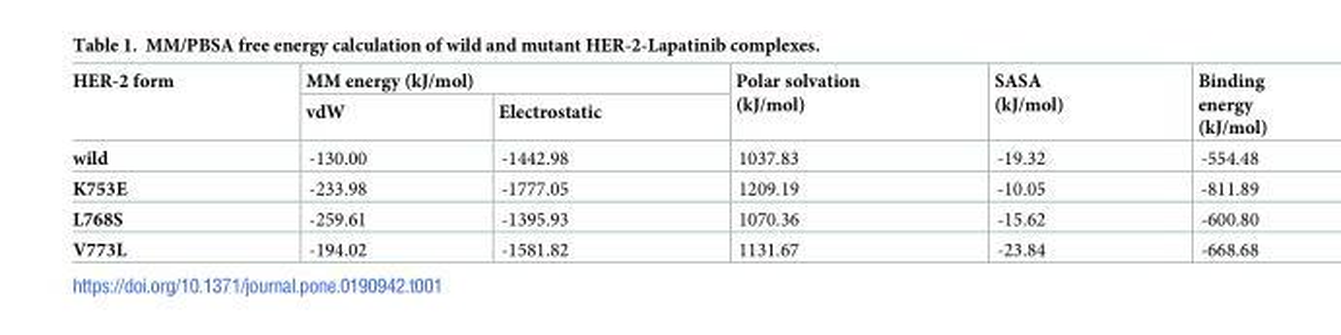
<table><thead><tr><td rowspan="2">HER-2 form</td><td colspan="2">MM energy (kJ/mol)</td><td rowspan="2">Polar solvation (kJ/mol)</td><td rowspan="2">SASA (kJ/mol)</td><td rowspan="2">Binding energy (kJ/mol)</td></tr><tr><td>vdW</td><td>Electrostatic</td></tr></thead><tbody><tr><td>wild</td><td>-130.00</td><td>-1442.98</td><td>1037.83</td><td>-19.32</td><td>-554.48</td></tr><tr><td>K753E</td><td>-233.98</td><td>-1777.05</td><td>1209.19</td><td>-10.05</td><td>-811.89</td></tr><tr><td>L768S</td><td>-259.61</td><td>-1395.93</td><td>1070.36</td><td>-15.62</td><td>-600.80</td></tr><tr><td>V773L</td><td>-194.02</td><td>-1581.82</td><td>1131.67</td><td>-23.84</td><td>-668.68</td></tr></tbody></table>